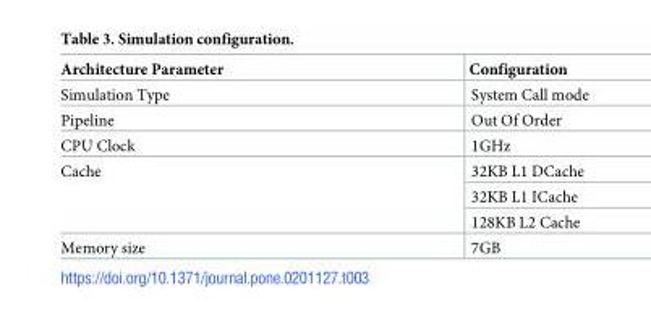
<table><thead><tr><td>Architecture Parameter</td><td>Configuration</td></tr></thead><tbody><tr><td>Simulation Type</td><td>System Call mode</td></tr><tr><td>Pipeline</td><td>Out Of Order</td></tr><tr><td>CPU Clock</td><td>1GHz</td></tr><tr><td rowspan="3">Cache</td><td>32KB L1 DCache</td></tr><tr><td>32KB L1 ICache</td></tr><tr><td>128KB L2 Cache</td></tr><tr><td>Memory size</td><td>7GB</td></tr></tbody></table>